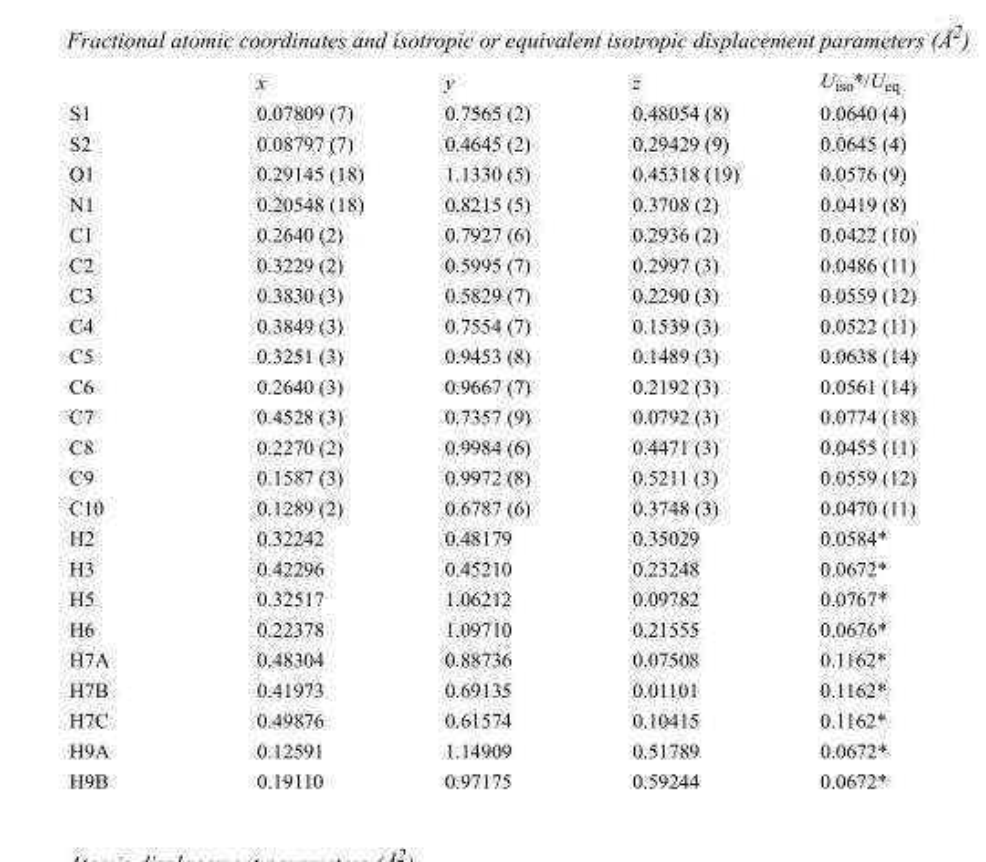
<table><thead><tr><td></td><td>x</td><td>y</td><td>z</td><td>U<sub>iso</sub>*/U<sub>eq</sub></td></tr></thead><tbody><tr><td>S1</td><td>0.07809 (7)</td><td>0.7565 (2)</td><td>0.48054 (8)</td><td>0.0640 (4)</td></tr><tr><td>S2</td><td>0.08797 (7)</td><td>0.4645 (2)</td><td>0.29429 (9)</td><td>0.0645 (4)</td></tr><tr><td>O1</td><td>0.29145 (18)</td><td>1.1330 (5)</td><td>0.45318 (19)</td><td>0.0576 (9)</td></tr><tr><td>N1</td><td>0.20548 (18)</td><td>0.8215 (5)</td><td>0.3708 (2)</td><td>0.0419 (8)</td></tr><tr><td>C1</td><td>0.2640 (2)</td><td>0.7927 (6)</td><td>0.2936 (2)</td><td>0.0422 (10)</td></tr><tr><td>C2</td><td>0.3229 (2)</td><td>0.5995 (7)</td><td>0.2997 (3)</td><td>0.0486 (11)</td></tr><tr><td>C3</td><td>0.3830 (3)</td><td>0.5829 (7)</td><td>0.2290 (3)</td><td>0.0559 (12)</td></tr><tr><td>C4</td><td>0.3849 (3)</td><td>0.7554 (7)</td><td>0.1539 (3)</td><td>0.0522 (11)</td></tr><tr><td>C5</td><td>0.3251 (3)</td><td>0.9453 (8)</td><td>0.1489 (3)</td><td>0.0638 (14)</td></tr><tr><td>C6</td><td>0.2640 (3)</td><td>0.9667 (7)</td><td>0.2192 (3)</td><td>0.0561 (14)</td></tr><tr><td>C7</td><td>0.4528 (3)</td><td>0.7357 (9)</td><td>0.0792 (3)</td><td>0.0774 (18)</td></tr><tr><td>C8</td><td>0.2270 (2)</td><td>0.9984 (6)</td><td>0.4471 (3)</td><td>0.0455 (11)</td></tr><tr><td>C9</td><td>0.1587 (3)</td><td>0.9972 (8)</td><td>0.5211 (3)</td><td>0.0559 (12)</td></tr><tr><td>C10</td><td>0.1289 (2)</td><td>0.6787 (6)</td><td>0.3748 (3)</td><td>0.0470 (11)</td></tr><tr><td>H2</td><td>0.32242</td><td>0.48179</td><td>0.35029</td><td>0.0584*</td></tr><tr><td>H3</td><td>0.42296</td><td>0.45210</td><td>0.23248</td><td>0.0672*</td></tr><tr><td>H5</td><td>0.32517</td><td>1.06212</td><td>0.09782</td><td>0.0767*</td></tr><tr><td>H6</td><td>0.22378</td><td>1.09710</td><td>0.21555</td><td>0.0676*</td></tr><tr><td>H7A</td><td>0.48304</td><td>0.88736</td><td>0.07508</td><td>0.1162*</td></tr><tr><td>H7B</td><td>0.41973</td><td>0.69135</td><td>0.01101</td><td>0.1162*</td></tr><tr><td>H7C</td><td>0.49876</td><td>0.61574</td><td>0.10415</td><td>0.1162*</td></tr><tr><td>H9A</td><td>0.12591</td><td>1.14909</td><td>0.51789</td><td>0.0672*</td></tr><tr><td>H9B</td><td>0.19110</td><td>0.97175</td><td>0.59244</td><td>0.0672*</td></tr></tbody></table>